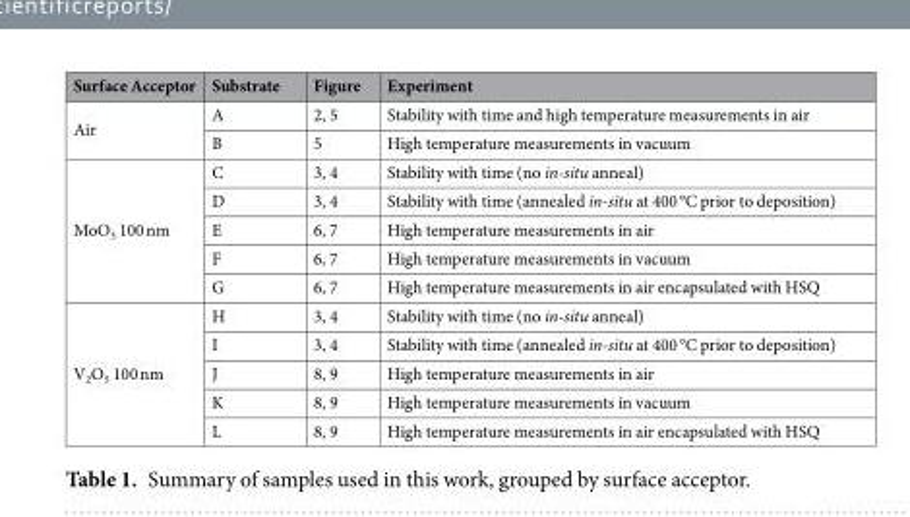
<table><thead><tr><td>Surface Acceptor</td><td>Substrate</td><td>Figure</td><td>Experiment</td></tr></thead><tbody><tr><td rowspan="2">Air</td><td>A</td><td>2, 5</td><td>Stability with time and high temperature measurements in air</td></tr><tr><td>B</td><td>5</td><td>High temperature measurements in vacuum</td></tr><tr><td rowspan="5">MoO<sub>3</sub> 100 nm</td><td>C</td><td>3, 4</td><td>Stability with time (no in-situ anneal)</td></tr><tr><td>D</td><td>3, 4</td><td>Stability with time (annealed in-situ at 400 °C prior to deposition)</td></tr><tr><td>E</td><td>6, 7</td><td>High temperature measurements in air</td></tr><tr><td>F</td><td>6, 7</td><td>High temperature measurements in vacuum</td></tr><tr><td>G</td><td>6, 7</td><td>High temperature measurements in air encapsulated with HSQ</td></tr><tr><td rowspan="5">V<sub>2</sub>O<sub>5</sub> 100 nm</td><td>H</td><td>3, 4</td><td>Stability with time (no in-situ anneal)</td></tr><tr><td>I</td><td>3, 4</td><td>Stability with time (annealed in-situ at 400 °C prior to deposition)</td></tr><tr><td>J</td><td>8, 9</td><td>High temperature measurements in air</td></tr><tr><td>K</td><td>8, 9</td><td>High temperature measurements in vacuum</td></tr><tr><td>L</td><td>8, 9</td><td>High temperature measurements in air encapsulated with HSQ</td></tr></tbody></table>